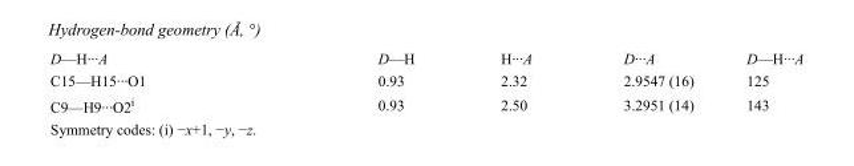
<table><tbody><tr><td>D—H···A</td><td>D—H</td><td>H···A</td><td>D···A</td><td>D—H···A</td></tr><tr><td>C15—H15···O1</td><td>0.93</td><td>2.32</td><td>2.9547 (16)</td><td>125</td></tr><tr><td>C9—H9···O2<sup>i</sup></td><td>0.93</td><td>2.50</td><td>3.2951 (14)</td><td>143</td></tr></tbody></table>